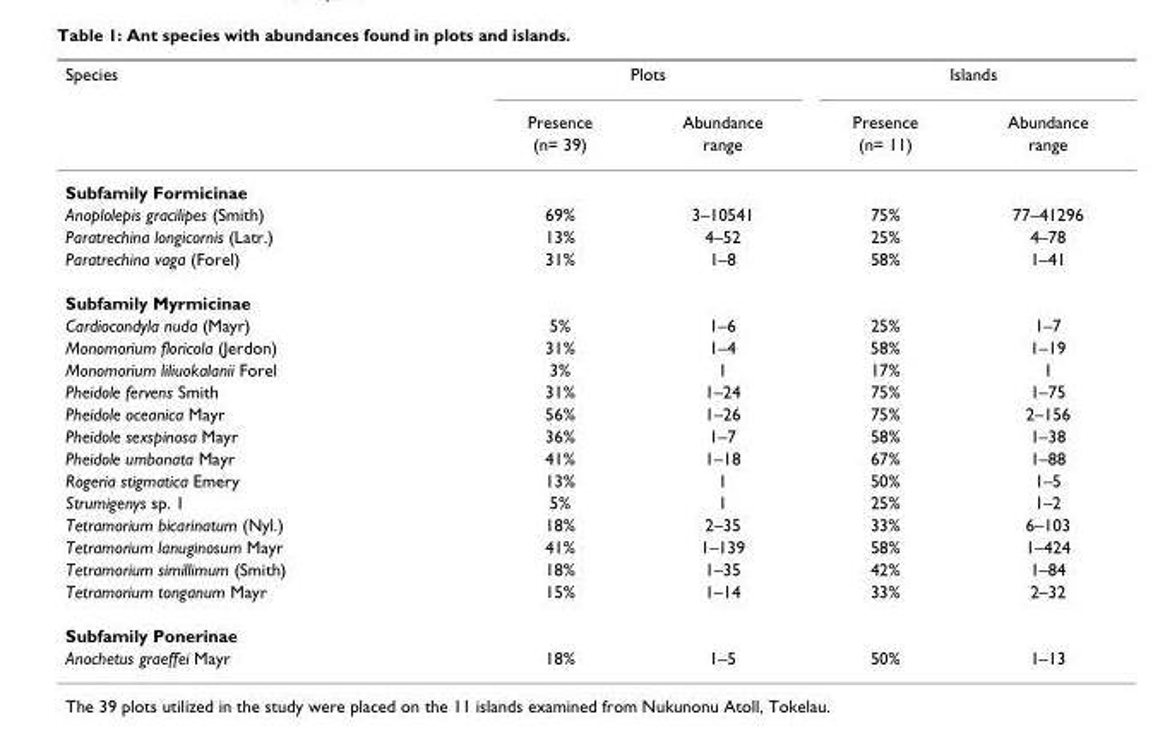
<table><thead><tr><td rowspan="3">Species</td><td colspan="2">Plots</td><td colspan="2">Islands</td></tr><tr><td rowspan="2">Presence (n= 39)</td><td rowspan="2">Abundance range</td><td rowspan="2">Presence (n= 11)</td><td rowspan="2">Abundance range</td></tr><tr></tr></thead><tbody><tr><td colspan="5">Subfamily Formicinae</td></tr><tr><td>Anoplolepis gracilipes (Smith)</td><td>69%</td><td>3–10541</td><td>75%</td><td>77–41296</td></tr><tr><td>Paratrechina longicornis (Latr.)</td><td>13%</td><td>4–52</td><td>25%</td><td>4–78</td></tr><tr><td>Paratrechina vaga (Forel)</td><td>31%</td><td>1–8</td><td>58%</td><td>1–41</td></tr><tr><td colspan="5">Subfamily Myrmicinae</td></tr><tr><td>Cardiocondyla nuda (Mayr)</td><td>5%</td><td>1–6</td><td>25%</td><td>1–7</td></tr><tr><td>Monomorium floricola (Jerdon)</td><td>31%</td><td>1–4</td><td>58%</td><td>1–19</td></tr><tr><td>Monomorium liliuokalanii Forel</td><td>3%</td><td>1</td><td>17%</td><td>1</td></tr><tr><td>Pheidole fervens Smith</td><td>31%</td><td>1–24</td><td>75%</td><td>1–75</td></tr><tr><td>Pheidole oceanica Mayr</td><td>56%</td><td>1–26</td><td>75%</td><td>2–156</td></tr><tr><td>Pheidole sexspinosa Mayr</td><td>36%</td><td>1–7</td><td>58%</td><td>1–38</td></tr><tr><td>Pheidole umbonata Mayr</td><td>41%</td><td>1–18</td><td>67%</td><td>1–88</td></tr><tr><td>Rogeria stigmatica Emery</td><td>13%</td><td>1</td><td>50%</td><td>1–5</td></tr><tr><td>Strumigenys sp. 1</td><td>5%</td><td>1</td><td>25%</td><td>1–2</td></tr><tr><td>Tetramorium bicarinatum (Nyl.)</td><td>18%</td><td>2–35</td><td>33%</td><td>6–103</td></tr><tr><td>Tetramorium lanuginosum Mayr</td><td>41%</td><td>1–139</td><td>58%</td><td>1–424</td></tr><tr><td>Tetramorium simillimum (Smith)</td><td>18%</td><td>1–35</td><td>42%</td><td>1–84</td></tr><tr><td>Tetramorium tonganum Mayr</td><td>15%</td><td>1–14</td><td>33%</td><td>2–32</td></tr><tr><td colspan="5">Subfamily Ponerinae</td></tr><tr><td>Anochetus graeffei Mayr</td><td>18%</td><td>1–5</td><td>50%</td><td>1–13</td></tr></tbody></table>